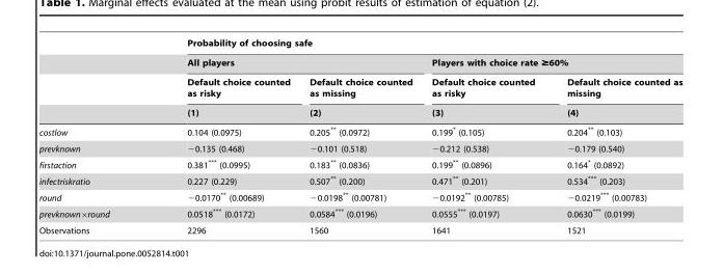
<table><thead><tr><td rowspan="4"></td><td colspan="4">Probability of choosing safe</td></tr><tr><td colspan="2">All players</td><td colspan="2">Players with choice rate ≥60%</td></tr><tr><td rowspan="2">Default choice counted as risky (1)</td><td rowspan="2">Default choice counted as missing (2)</td><td rowspan="2">Default choice counted as risky (3)</td><td rowspan="2">Default choice counted as missing (4)</td></tr><tr></tr></thead><tbody><tr><td>costlow</td><td>0.104 (0.0975)</td><td>0.205** (0.0972)</td><td>0.199* (0.105)</td><td>0.204** (0.103)</td></tr><tr><td>prevknown</td><td>−0.135 (0.468)</td><td>−0.101 (0.518)</td><td>−0.212 (0.538)</td><td>−0.179 (0.540)</td></tr><tr><td>firstaction</td><td>0.381*** (0.0995)</td><td>0.183** (0.0836)</td><td>0.199** (0.0896)</td><td>0.164* (0.0892)</td></tr><tr><td>infectriskratio</td><td>0.227 (0.229)</td><td>0.507** (0.200)</td><td>0.471** (0.201)</td><td>0.534*** (0.203)</td></tr><tr><td>round</td><td>−0.0170** (0.00689)</td><td>−0.0198** (0.00781)</td><td>−0.0192** (0.00785)</td><td>−0.0219*** (0.00783)</td></tr><tr><td>prevknown×round</td><td>0.0518*** (0.0172)</td><td>0.0584*** (0.0196)</td><td>0.0555*** (0.0197)</td><td>0.0630*** (0.0199)</td></tr><tr><td>Observations</td><td>2296</td><td>1560</td><td>1641</td><td>1521</td></tr></tbody></table>